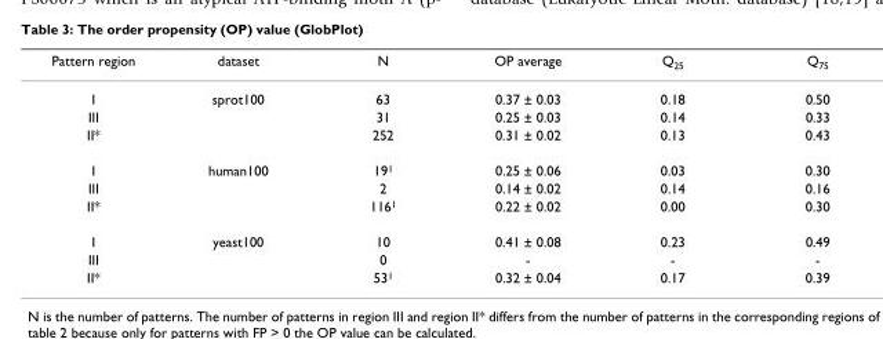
<table><thead><tr><td>Pattern region</td><td>dataset</td><td>N</td><td>OP average</td><td>Q<sub>25</sub></td><td>Q<sub>75</sub></td></tr></thead><tbody><tr><td>I</td><td>sprot100</td><td>63</td><td>0.37 ± 0.03</td><td>0.18</td><td>0.50</td></tr><tr><td>III</td><td></td><td>31</td><td>0.25 ± 0.03</td><td>0.14</td><td>0.33</td></tr><tr><td>II*</td><td></td><td>252</td><td>0.31 ± 0.02</td><td>0.13</td><td>0.43</td></tr><tr><td>I</td><td>human100</td><td>19<sup>1</sup></td><td>0.25 ± 0.06</td><td>0.03</td><td>0.30</td></tr><tr><td>III</td><td></td><td>2</td><td>0.14 ± 0.02</td><td>0.14</td><td>0.16</td></tr><tr><td>II*</td><td></td><td>116<sup>1</sup></td><td>0.22 ± 0.02</td><td>0.00</td><td>0.30</td></tr><tr><td>I</td><td>yeast100</td><td>10</td><td>0.41 ± 0.08</td><td>0.23</td><td>0.49</td></tr><tr><td>III</td><td></td><td>0</td><td>-</td><td>-</td><td>-</td></tr><tr><td>II*</td><td></td><td>53<sup>1</sup></td><td>0.32 ± 0.04</td><td>0.17</td><td>0.39</td></tr></tbody></table>